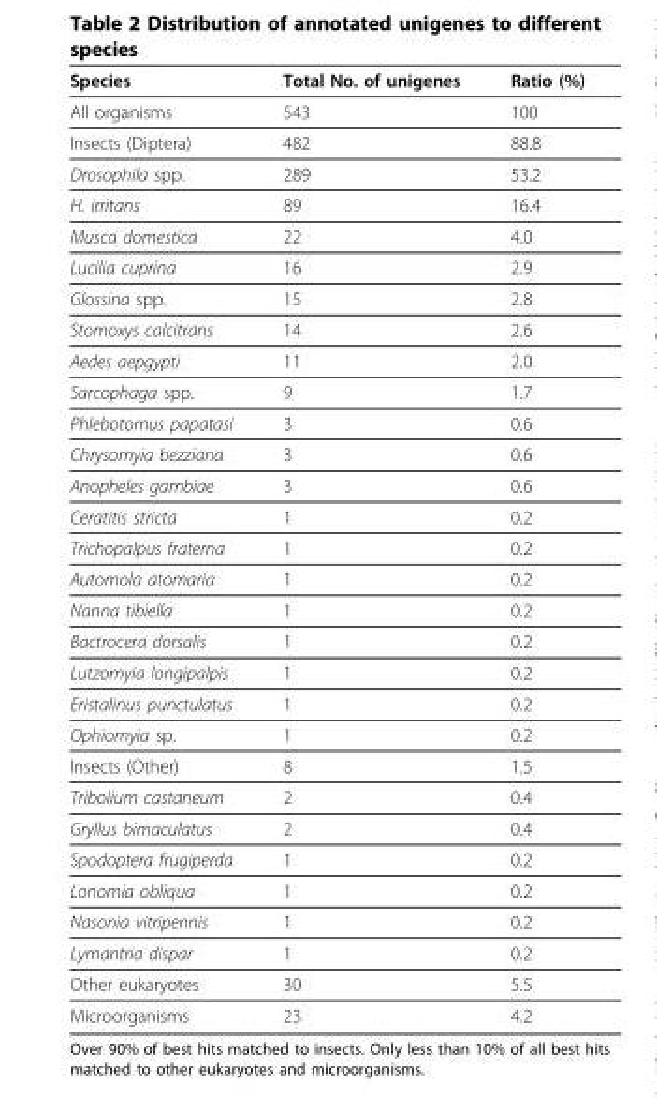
<table><thead><tr><td>Species</td><td>Total No. of unigenes</td><td>Ratio (%)</td></tr></thead><tbody><tr><td>All organisms</td><td>543</td><td>100</td></tr><tr><td>Insects (Diptera)</td><td>482</td><td>88.8</td></tr><tr><td>Drosophila spp.</td><td>289</td><td>53.2</td></tr><tr><td>H. irritans</td><td>89</td><td>16.4</td></tr><tr><td>Musca domestica</td><td>22</td><td>4.0</td></tr><tr><td>Lucilia cuprina</td><td>16</td><td>2.9</td></tr><tr><td>Glossina spp.</td><td>15</td><td>2.8</td></tr><tr><td>Stomoxys calcitrans</td><td>14</td><td>2.6</td></tr><tr><td>Aedes aepgypti</td><td>11</td><td>2.0</td></tr><tr><td>Sarcophaga spp.</td><td>9</td><td>1.7</td></tr><tr><td>Phlebotomus papatasi</td><td>3</td><td>0.6</td></tr><tr><td>Chrysomyia bezziana</td><td>3</td><td>0.6</td></tr><tr><td>Anopheles gambiae</td><td>3</td><td>0.6</td></tr><tr><td>Ceratitis stricta</td><td>1</td><td>0.2</td></tr><tr><td>Trichopalpus fraterna</td><td>1</td><td>0.2</td></tr><tr><td>Automola atomaria</td><td>1</td><td>0.2</td></tr><tr><td>Nanna tibiella</td><td>1</td><td>0.2</td></tr><tr><td>Bactrocera dorsalis</td><td>1</td><td>0.2</td></tr><tr><td>Lutzomyia longipalpis</td><td>1</td><td>0.2</td></tr><tr><td>Eristalinus punctulatus</td><td>1</td><td>0.2</td></tr><tr><td>Ophiomyia sp.</td><td>1</td><td>0.2</td></tr><tr><td>Insects (Other)</td><td>8</td><td>1.5</td></tr><tr><td>Tribolium castaneum</td><td>2</td><td>0.4</td></tr><tr><td>Gryllus bimaculatus</td><td>2</td><td>0.4</td></tr><tr><td>Spodoptera frugiperda</td><td>1</td><td>0.2</td></tr><tr><td>Lonomia obliqua</td><td>1</td><td>0.2</td></tr><tr><td>Nasonia vitripennis</td><td>1</td><td>0.2</td></tr><tr><td>Lymantria dispar</td><td>1</td><td>0.2</td></tr><tr><td>Other eukaryotes</td><td>30</td><td>5.5</td></tr><tr><td>Microorganisms</td><td>23</td><td>4.2</td></tr></tbody></table>